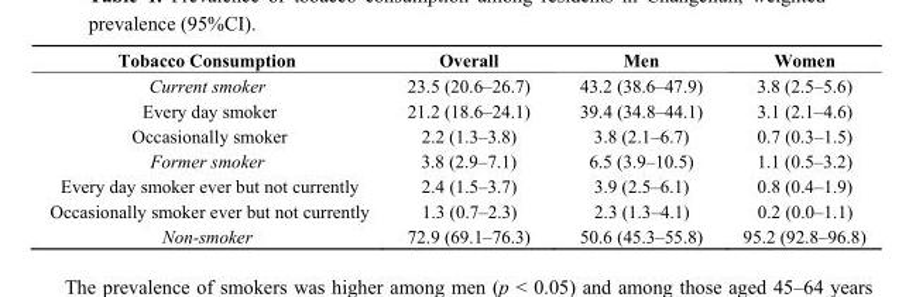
<table><thead><tr><td>Tobacco Consumption</td><td>Overall</td><td>Men</td><td>Women</td></tr></thead><tbody><tr><td>Current smoker</td><td>23.5 (20.6–26.7)</td><td>43.2 (38.6–47.9)</td><td>3.8 (2.5–5.6)</td></tr><tr><td>Every day smoker</td><td>21.2 (18.6–24.1)</td><td>39.4 (34.8–44.1)</td><td>3.1 (2.1–4.6)</td></tr><tr><td>Occasionally smoker</td><td>2.2 (1.3–3.8)</td><td>3.8 (2.1–6.7)</td><td>0.7 (0.3–1.5)</td></tr><tr><td>Former smoker</td><td>3.8 (2.9–7.1)</td><td>6.5 (3.9–10.5)</td><td>1.1 (0.5–3.2)</td></tr><tr><td>Every day smoker ever but not currently</td><td>2.4 (1.5–3.7)</td><td>3.9 (2.5–6.1)</td><td>0.8 (0.4–1.9)</td></tr><tr><td>Occasionally smoker ever but not currently</td><td>1.3 (0.7–2.3)</td><td>2.3 (1.3–4.1)</td><td>0.2 (0.0–1.1)</td></tr><tr><td>Non-smoker</td><td>72.9 (69.1–76.3)</td><td>50.6 (45.3–55.8)</td><td>95.2 (92.8–96.8)</td></tr></tbody></table>